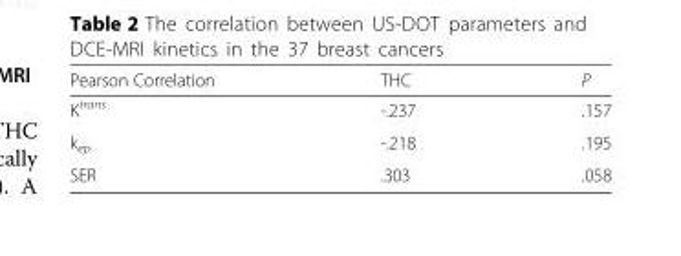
<table><thead><tr><td>Pearson Correlation</td><td>THC</td><td>P</td></tr></thead><tbody><tr><td>K<sup>trans</sup></td><td>-.237</td><td>.157</td></tr><tr><td>k<sub>ep</sub></td><td>-.218</td><td>.195</td></tr><tr><td>SER</td><td>.303</td><td>.058</td></tr></tbody></table>